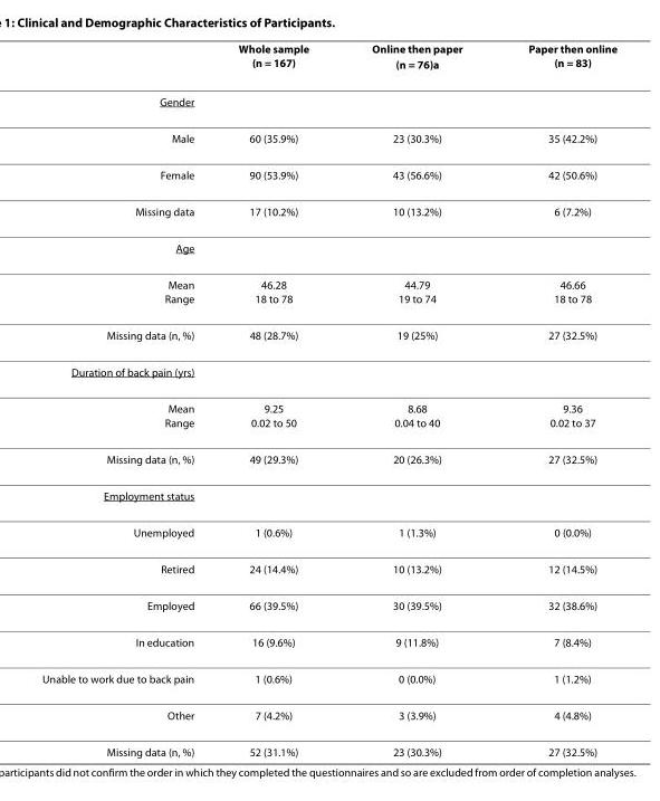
<table><thead><tr><td></td><td>Whole sample (n = 167)</td><td>Online then paper (n = 76)<sup>a</sup></td><td>Paper then online (n = 83)</td></tr></thead><tbody><tr><td colspan="4">Gender</td></tr><tr><td>Male</td><td>60 (35.9%)</td><td>23 (30.3%)</td><td>35 (42.2%)</td></tr><tr><td>Female</td><td>90 (53.9%)</td><td>43 (56.6%)</td><td>42 (50.6%)</td></tr><tr><td>Missing data</td><td>17 (10.2%)</td><td>10 (13.2%)</td><td>6 (7.2%)</td></tr><tr><td colspan="4">Age</td></tr><tr><td>Mean Range</td><td>46.28 18 to 78</td><td>44.79 19 to 74</td><td>46.66 18 to 78</td></tr><tr><td>Missing data (n, %)</td><td>48 (28.7%)</td><td>19 (25%)</td><td>27 (32.5%)</td></tr><tr><td colspan="4">Duration of back pain (yrs)</td></tr><tr><td>Mean Range</td><td>9.25 0.02 to 50</td><td>8.68 0.04 to 40</td><td>9.36 0.02 to 37</td></tr><tr><td>Missing data (n, %)</td><td>49 (29.3%)</td><td>20 (26.3%)</td><td>27 (32.5%)</td></tr><tr><td colspan="4">Employment status</td></tr><tr><td>Unemployed</td><td>1 (0.6%)</td><td>1 (1.3%)</td><td>0 (0.0%)</td></tr><tr><td>Retired</td><td>24 (14.4%)</td><td>10 (13.2%)</td><td>12 (14.5%)</td></tr><tr><td>Employed</td><td>66 (39.5%)</td><td>30 (39.5%)</td><td>32 (38.6%)</td></tr><tr><td>In education</td><td>16 (9.6%)</td><td>9 (11.8%)</td><td>7 (8.4%)</td></tr><tr><td>Unable to work due to back pain</td><td>1 (0.6%)</td><td>0 (0.0%)</td><td>1 (1.2%)</td></tr><tr><td>Other</td><td>7 (4.2%)</td><td>3 (3.9%)</td><td>4 (4.8%)</td></tr><tr><td>Missing data (n, %)</td><td>52 (31.1%)</td><td>23 (30.3%)</td><td>27 (32.5%)</td></tr></tbody></table>